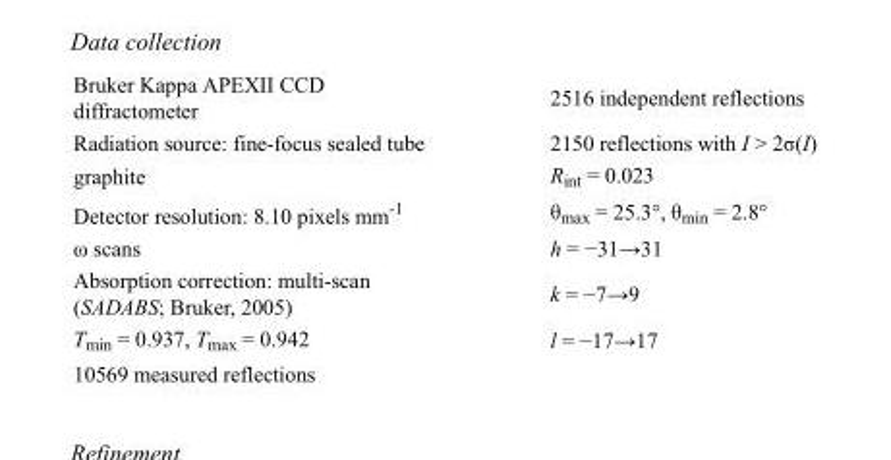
<table><tbody><tr><td>Bruker Kappa APEXII CCD diffractometer</td><td>2516 independent reflections</td></tr><tr><td>Radiation source: fine-focus sealed tube</td><td>2150 reflections with I &gt; 2σ(I)</td></tr><tr><td>graphite</td><td>R<sub>int</sub> = 0.023</td></tr><tr><td>Detector resolution: 8.10 pixels mm<sup>-1</sup></td><td>θ<sub>max</sub> = 25.3°, θ<sub>min</sub> = 2.8°</td></tr><tr><td>ω scans</td><td>h = −31→31</td></tr><tr><td>Absorption correction: multi-scan (SADABS; Bruker, 2005)</td><td>k = −7→9</td></tr><tr><td>T<sub>min</sub> = 0.937, T<sub>max</sub> = 0.942</td><td>l = −17→17</td></tr><tr><td>10569 measured reflections</td><td></td></tr></tbody></table>